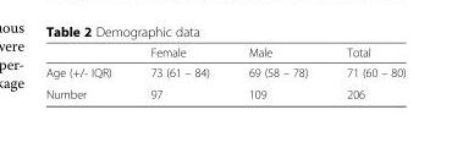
<table><thead><tr><td></td><td>Female</td><td>Male</td><td>Total</td></tr></thead><tbody><tr><td>Age (+/- IQR)</td><td>73 (61 – 84)</td><td>69 (58 – 78)</td><td>71 (60 – 80)</td></tr><tr><td>Number</td><td>97</td><td>109</td><td>206</td></tr></tbody></table>